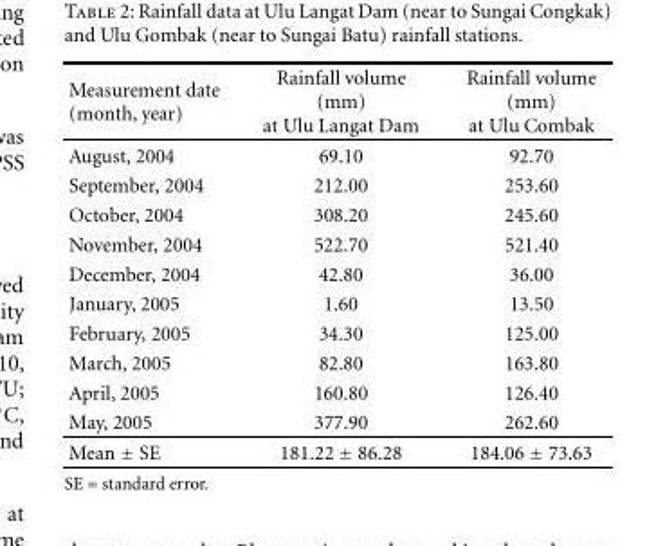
<table><thead><tr><td>Measurement date (month, year)</td><td>Rainfall volume (mm) at Ulu Langat Dam</td><td>Rainfall volume (mm) at Ulu Combak</td></tr></thead><tbody><tr><td>August, 2004</td><td>69.10</td><td>92.70</td></tr><tr><td>September, 2004</td><td>212.00</td><td>253.60</td></tr><tr><td>October, 2004</td><td>308.20</td><td>245.60</td></tr><tr><td>November, 2004</td><td>522.70</td><td>521.40</td></tr><tr><td>December, 2004</td><td>42.80</td><td>36.00</td></tr><tr><td>January, 2005</td><td>1.60</td><td>13.50</td></tr><tr><td>February, 2005</td><td>34.30</td><td>125.00</td></tr><tr><td>March, 2005</td><td>82.80</td><td>163.80</td></tr><tr><td>April, 2005</td><td>160.80</td><td>126.40</td></tr><tr><td>May, 2005</td><td>377.90</td><td>262.60</td></tr><tr><td>Mean ± SE</td><td>181.22 ± 86.28</td><td>184.06 ± 73.63</td></tr></tbody></table>